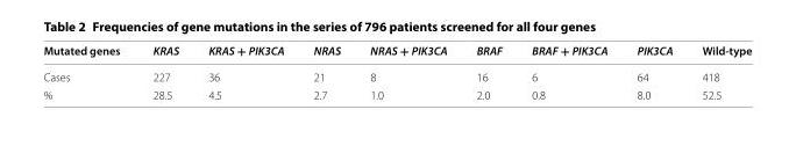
<table><thead><tr><td>Mutated genes</td><td>KRAS</td><td>KRAS + PIK3CA</td><td>NRAS</td><td>NRAS + PIK3CA</td><td>BRAF</td><td>BRAF + PIK3CA</td><td>PIK3CA</td><td>Wild-type</td></tr></thead><tbody><tr><td>Cases</td><td>227</td><td>36</td><td>21</td><td>8</td><td>16</td><td>6</td><td>64</td><td>418</td></tr><tr><td>%</td><td>28.5</td><td>4.5</td><td>2.7</td><td>1.0</td><td>2.0</td><td>0.8</td><td>8.0</td><td>52.5</td></tr></tbody></table>